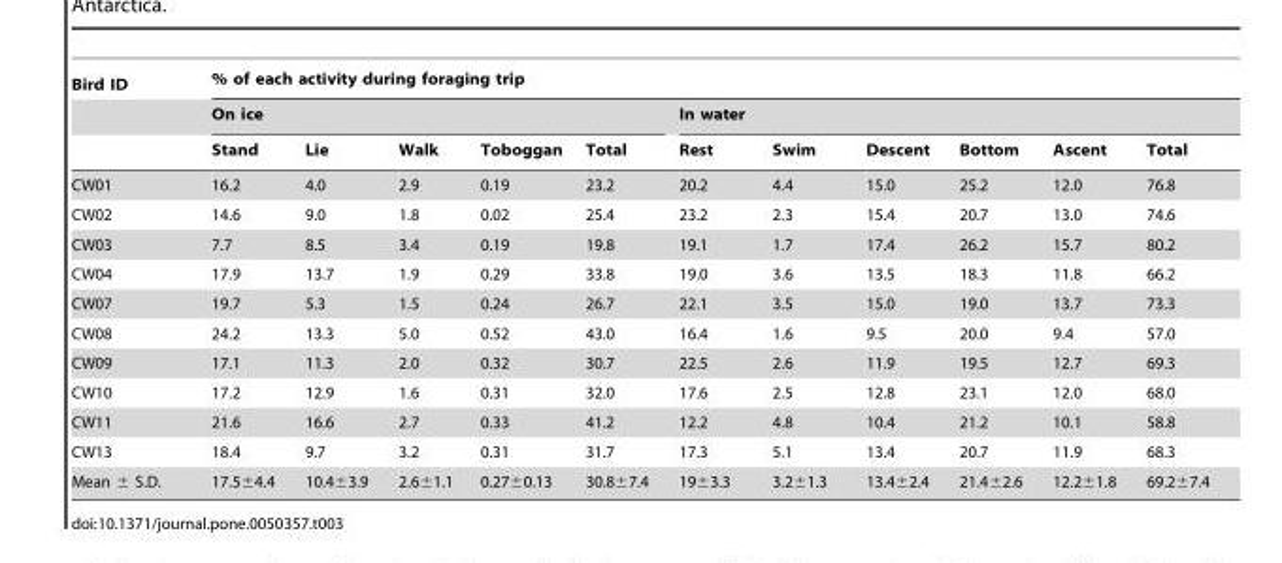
<table><thead><tr><td rowspan="3">Bird ID</td><td colspan="11">% of each activity during foraging trip</td></tr><tr><td colspan="5">On ice</td><td colspan="6">In water</td></tr><tr><td>Stand</td><td>Lie</td><td>Walk</td><td>Toboggan</td><td>Total</td><td>Rest</td><td>Swim</td><td>Descent</td><td>Bottom</td><td>Ascent</td><td>Total</td></tr></thead><tbody><tr><td>CW01</td><td>16.2</td><td>4.0</td><td>2.9</td><td>0.19</td><td>23.2</td><td>20.2</td><td>4.4</td><td>15.0</td><td>25.2</td><td>12.0</td><td>76.8</td></tr><tr><td>CW02</td><td>14.6</td><td>9.0</td><td>1.8</td><td>0.02</td><td>25.4</td><td>23.2</td><td>2.3</td><td>15.4</td><td>20.7</td><td>13.0</td><td>74.6</td></tr><tr><td>CW03</td><td>7.7</td><td>8.5</td><td>3.4</td><td>0.19</td><td>19.8</td><td>19.1</td><td>1.7</td><td>17.4</td><td>26.2</td><td>15.7</td><td>80.2</td></tr><tr><td>CW04</td><td>17.9</td><td>13.7</td><td>1.9</td><td>0.29</td><td>33.8</td><td>19.0</td><td>3.6</td><td>13.5</td><td>18.3</td><td>11.8</td><td>66.2</td></tr><tr><td>CW07</td><td>19.7</td><td>5.3</td><td>1.5</td><td>0.24</td><td>26.7</td><td>22.1</td><td>3.5</td><td>15.0</td><td>19.0</td><td>13.7</td><td>73.3</td></tr><tr><td>CW08</td><td>24.2</td><td>13.3</td><td>5.0</td><td>0.52</td><td>43.0</td><td>16.4</td><td>1.6</td><td>9.5</td><td>20.0</td><td>9.4</td><td>57.0</td></tr><tr><td>CW09</td><td>17.1</td><td>11.3</td><td>2.0</td><td>0.32</td><td>30.7</td><td>22.5</td><td>2.6</td><td>11.9</td><td>19.5</td><td>12.7</td><td>69.3</td></tr><tr><td>CW10</td><td>17.2</td><td>12.9</td><td>1.6</td><td>0.31</td><td>32.0</td><td>17.6</td><td>2.5</td><td>12.8</td><td>23.1</td><td>12.0</td><td>68.0</td></tr><tr><td>CW11</td><td>21.6</td><td>16.6</td><td>2.7</td><td>0.33</td><td>41.2</td><td>12.2</td><td>4.8</td><td>10.4</td><td>21.2</td><td>10.1</td><td>58.8</td></tr><tr><td>CW13</td><td>18.4</td><td>9.7</td><td>3.2</td><td>0.31</td><td>31.7</td><td>17.3</td><td>5.1</td><td>13.4</td><td>20.7</td><td>11.9</td><td>68.3</td></tr><tr><td>Mean ± S.D.</td><td>17.5±4.4</td><td>10.4±3.9</td><td>2.6±1.1</td><td>0.27±0.13</td><td>30.8±7.4</td><td>19±3.3</td><td>3.2±1.3</td><td>13.4±2.4</td><td>21.4±2.6</td><td>12.2±1.8</td><td>69.2±7.4</td></tr></tbody></table>